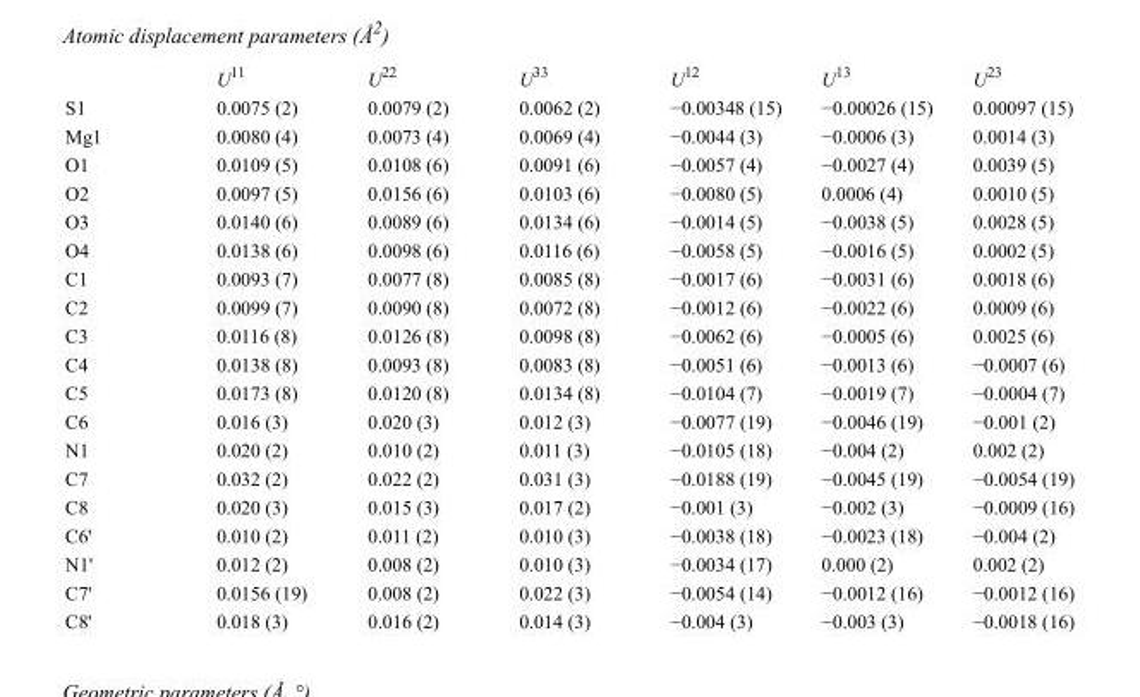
<table><thead><tr><td></td><td>U<sup>11</sup></td><td>U<sup>22</sup></td><td>U<sup>33</sup></td><td>U<sup>12</sup></td><td>U<sup>13</sup></td><td>U<sup>23</sup></td></tr></thead><tbody><tr><td>S1</td><td>0.0075 (2)</td><td>0.0079 (2)</td><td>0.0062 (2)</td><td>−0.00348 (15)</td><td>−0.00026 (15)</td><td>0.00097 (15)</td></tr><tr><td>Mg1</td><td>0.0080 (4)</td><td>0.0073 (4)</td><td>0.0069 (4)</td><td>−0.0044 (3)</td><td>−0.0006 (3)</td><td>0.0014 (3)</td></tr><tr><td>O1</td><td>0.0109 (5)</td><td>0.0108 (6)</td><td>0.0091 (6)</td><td>−0.0057 (4)</td><td>−0.0027 (4)</td><td>0.0039 (5)</td></tr><tr><td>O2</td><td>0.0097 (5)</td><td>0.0156 (6)</td><td>0.0103 (6)</td><td>−0.0080 (5)</td><td>0.0006 (4)</td><td>0.0010 (5)</td></tr><tr><td>O3</td><td>0.0140 (6)</td><td>0.0089 (6)</td><td>0.0134 (6)</td><td>−0.0014 (5)</td><td>−0.0038 (5)</td><td>0.0028 (5)</td></tr><tr><td>O4</td><td>0.0138 (6)</td><td>0.0098 (6)</td><td>0.0116 (6)</td><td>−0.0058 (5)</td><td>−0.0016 (5)</td><td>0.0002 (5)</td></tr><tr><td>C1</td><td>0.0093 (7)</td><td>0.0077 (8)</td><td>0.0085 (8)</td><td>−0.0017 (6)</td><td>−0.0031 (6)</td><td>0.0018 (6)</td></tr><tr><td>C2</td><td>0.0099 (7)</td><td>0.0090 (8)</td><td>0.0072 (8)</td><td>−0.0012 (6)</td><td>−0.0022 (6)</td><td>0.0009 (6)</td></tr><tr><td>C3</td><td>0.0116 (8)</td><td>0.0126 (8)</td><td>0.0098 (8)</td><td>−0.0062 (6)</td><td>−0.0005 (6)</td><td>0.0025 (6)</td></tr><tr><td>C4</td><td>0.0138 (8)</td><td>0.0093 (8)</td><td>0.0083 (8)</td><td>−0.0051 (6)</td><td>−0.0013 (6)</td><td>−0.0007 (6)</td></tr><tr><td>C5</td><td>0.0173 (8)</td><td>0.0120 (8)</td><td>0.0134 (8)</td><td>−0.0104 (7)</td><td>−0.0019 (7)</td><td>−0.0004 (7)</td></tr><tr><td>C6</td><td>0.016 (3)</td><td>0.020 (3)</td><td>0.012 (3)</td><td>−0.0077 (19)</td><td>−0.0046 (19)</td><td>−0.001 (2)</td></tr><tr><td>N1</td><td>0.020 (2)</td><td>0.010 (2)</td><td>0.011 (3)</td><td>−0.0105 (18)</td><td>−0.004 (2)</td><td>0.002 (2)</td></tr><tr><td>C7</td><td>0.032 (2)</td><td>0.022 (2)</td><td>0.031 (3)</td><td>−0.0188 (19)</td><td>−0.0045 (19)</td><td>−0.0054 (19)</td></tr><tr><td>C8</td><td>0.020 (3)</td><td>0.015 (3)</td><td>0.017 (2)</td><td>−0.001 (3)</td><td>−0.002 (3)</td><td>−0.0009 (16)</td></tr><tr><td>C6&#x27;</td><td>0.010 (2)</td><td>0.011 (2)</td><td>0.010 (3)</td><td>−0.0038 (18)</td><td>−0.0023 (18)</td><td>−0.004 (2)</td></tr><tr><td>N1&#x27;</td><td>0.012 (2)</td><td>0.008 (2)</td><td>0.010 (3)</td><td>−0.0034 (17)</td><td>0.000 (2)</td><td>0.002 (2)</td></tr><tr><td>C7&#x27;</td><td>0.0156 (19)</td><td>0.008 (2)</td><td>0.022 (3)</td><td>−0.0054 (14)</td><td>−0.0012 (16)</td><td>−0.0012 (16)</td></tr><tr><td>C8&#x27;</td><td>0.018 (3)</td><td>0.016 (2)</td><td>0.014 (3)</td><td>−0.004 (3)</td><td>−0.003 (3)</td><td>−0.0018 (16)</td></tr></tbody></table>